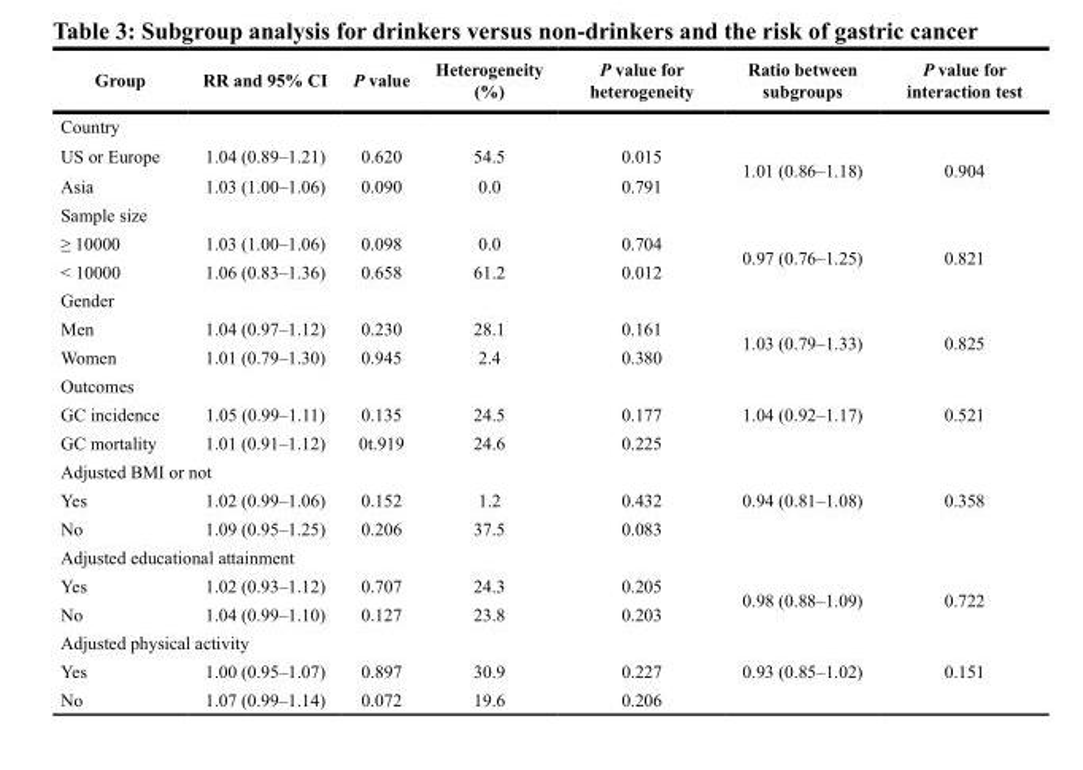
<table><thead><tr><td>Group</td><td>RR and 95% CI</td><td>P value</td><td>Heterogeneity (%)</td><td>P value for heterogeneity</td><td>Ratio between subgroups</td><td>P value for interaction test</td></tr></thead><tbody><tr><td colspan="7">Country</td></tr><tr><td>US or Europe</td><td>1.04 (0.89–1.21)</td><td>0.620</td><td>54.5</td><td>0.015</td><td rowspan="2">1.01 (0.86–1.18)</td><td rowspan="2">0.904</td></tr><tr><td>Asia</td><td>1.03 (1.00–1.06)</td><td>0.090</td><td>0.0</td><td>0.791</td></tr><tr><td colspan="7">Sample size</td></tr><tr><td>≥ 10000</td><td>1.03 (1.00–1.06)</td><td>0.098</td><td>0.0</td><td>0.704</td><td rowspan="2">0.97 (0.76–1.25)</td><td rowspan="2">0.821</td></tr><tr><td>&lt; 10000</td><td>1.06 (0.83–1.36)</td><td>0.658</td><td>61.2</td><td>0.012</td></tr><tr><td colspan="7">Gender</td></tr><tr><td>Men</td><td>1.04 (0.97–1.12)</td><td>0.230</td><td>28.1</td><td>0.161</td><td rowspan="2">1.03 (0.79–1.33)</td><td rowspan="2">0.825</td></tr><tr><td>Women</td><td>1.01 (0.79–1.30)</td><td>0.945</td><td>2.4</td><td>0.380</td></tr><tr><td colspan="7">Outcomes</td></tr><tr><td>GC incidence</td><td>1.05 (0.99–1.11)</td><td>0.135</td><td>24.5</td><td>0.177</td><td rowspan="2">1.04 (0.92–1.17)</td><td rowspan="2">0.521</td></tr><tr><td>GC mortality</td><td>1.01 (0.91–1.12)</td><td>0t.919</td><td>24.6</td><td>0.225</td></tr><tr><td colspan="7">Adjusted BMI or not</td></tr><tr><td>Yes</td><td>1.02 (0.99–1.06)</td><td>0.152</td><td>1.2</td><td>0.432</td><td rowspan="2">0.94 (0.81–1.08)</td><td rowspan="2">0.358</td></tr><tr><td>No</td><td>1.09 (0.95–1.25)</td><td>0.206</td><td>37.5</td><td>0.083</td></tr><tr><td colspan="7">Adjusted educational attainment</td></tr><tr><td>Yes</td><td>1.02 (0.93–1.12)</td><td>0.707</td><td>24.3</td><td>0.205</td><td rowspan="2">0.98 (0.88–1.09)</td><td rowspan="2">0.722</td></tr><tr><td>No</td><td>1.04 (0.99–1.10)</td><td>0.127</td><td>23.8</td><td>0.203</td></tr><tr><td colspan="7">Adjusted physical activity</td></tr><tr><td>Yes</td><td>1.00 (0.95–1.07)</td><td>0.897</td><td>30.9</td><td>0.227</td><td rowspan="2">0.93 (0.85–1.02)</td><td rowspan="2">0.151</td></tr><tr><td>No</td><td>1.07 (0.99–1.14)</td><td>0.072</td><td>19.6</td><td>0.206</td></tr></tbody></table>